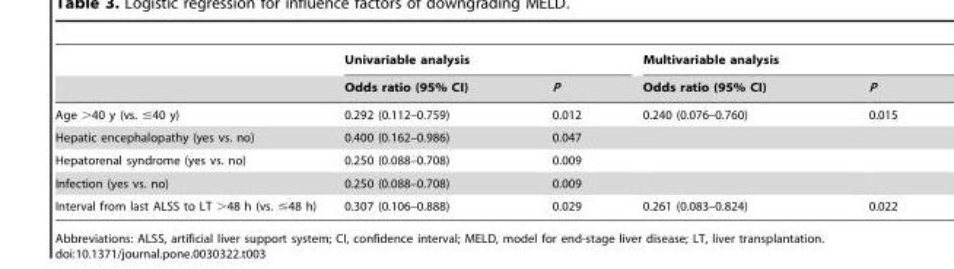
<table><thead><tr><td rowspan="2"></td><td colspan="2">Univariable analysis</td><td colspan="2">Multivariable analysis</td></tr><tr><td>Odds ratio (95% CI)</td><td>P</td><td>Odds ratio (95% CI)</td><td>P</td></tr></thead><tbody><tr><td>Age &gt;40 y (vs. ≤40 y)</td><td>0.292 (0.112–0.759)</td><td>0.012</td><td>0.240 (0.076–0.760)</td><td>0.015</td></tr><tr><td>Hepatic encephalopathy (yes vs. no)</td><td>0.400 (0.162–0.986)</td><td>0.047</td><td></td><td></td></tr><tr><td>Hepatorenal syndrome (yes vs. no)</td><td>0.250 (0.088–0.708)</td><td>0.009</td><td></td><td></td></tr><tr><td>Infection (yes vs. no)</td><td>0.250 (0.088–0.708)</td><td>0.009</td><td></td><td></td></tr><tr><td>Interval from last ALSS to LT &gt;48 h (vs. ≤48 h)</td><td>0.307 (0.106–0.888)</td><td>0.029</td><td>0.261 (0.083–0.824)</td><td>0.022</td></tr></tbody></table>